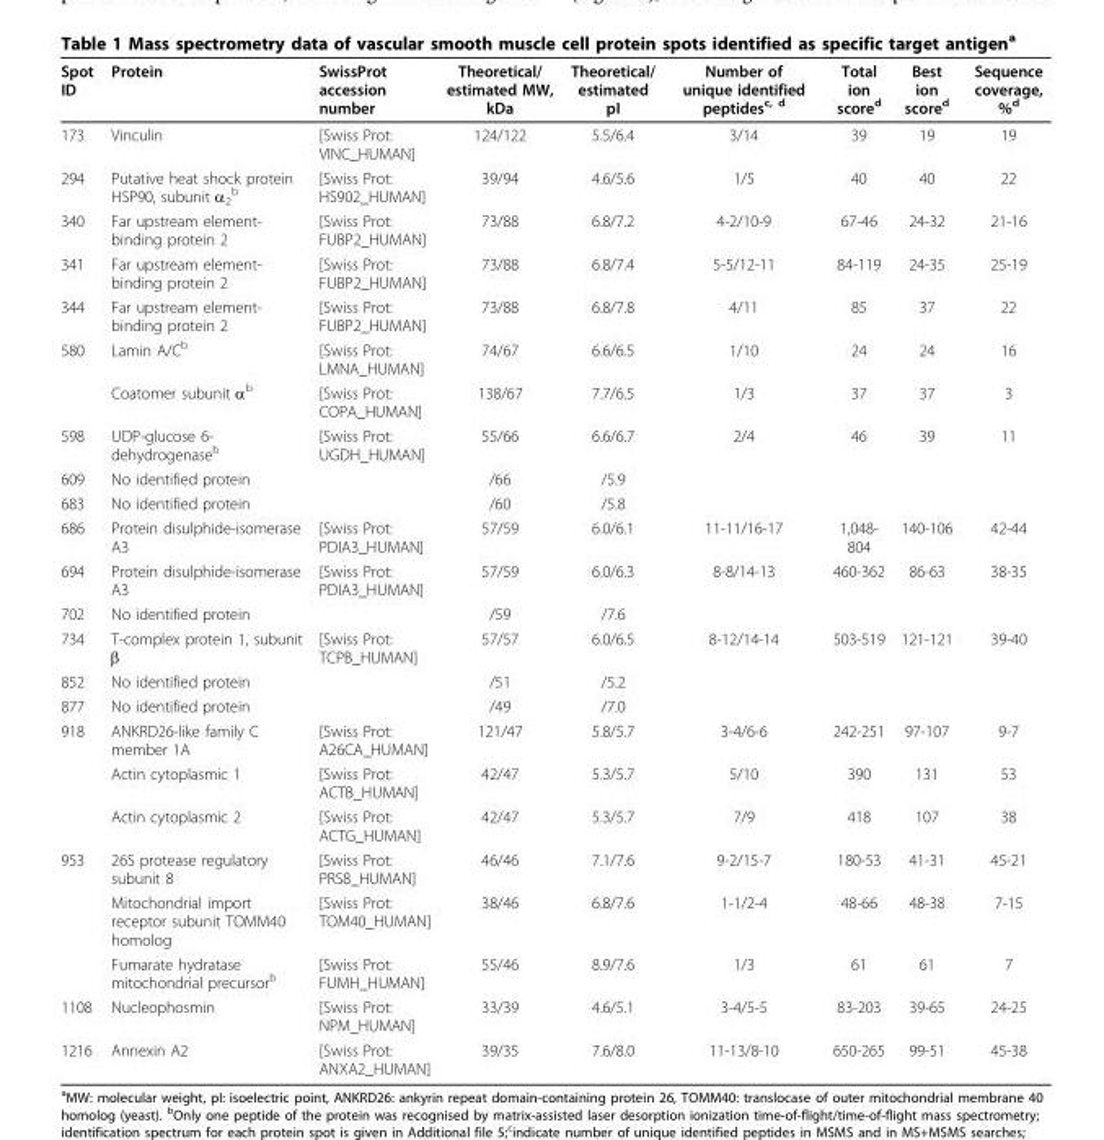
<table><thead><tr><td>Spot ID</td><td>Protein</td><td>SwissProt accession number</td><td>Theoretical/ estimated MW, kDa</td><td>Theoretical/ estimated pI</td><td>Number of unique identified peptides<sup>c, d</sup></td><td>Total ion score<sup>d</sup></td><td>Best ion score<sup>d</sup></td><td>Sequence coverage, %<sup>d</sup></td></tr></thead><tbody><tr><td>173</td><td>Vinculin</td><td>[Swiss Prot: VINC_HUMAN]</td><td>124/122</td><td>5.5/6.4</td><td>3/14</td><td>39</td><td>19</td><td>19</td></tr><tr><td>294</td><td>Putative heat shock protein HSP90, subunit α<sub>2</sub> <sup>b</sup></td><td>[Swiss Prot: HS902_HUMAN]</td><td>39/94</td><td>4.6/5.6</td><td>1/5</td><td>40</td><td>40</td><td>22</td></tr><tr><td>340</td><td>Far upstream element- binding protein 2</td><td>[Swiss Prot: FUBP2_HUMAN]</td><td>73/88</td><td>6.8/7.2</td><td>4-2/10-9</td><td>67-46</td><td>24-32</td><td>21-16</td></tr><tr><td>341</td><td>Far upstream element- binding protein 2</td><td>[Swiss Prot: FUBP2_HUMAN]</td><td>73/88</td><td>6.8/7.4</td><td>5-5/12-11</td><td>84-119</td><td>24-35</td><td>25-19</td></tr><tr><td>344</td><td>Far upstream element- binding protein 2</td><td>[Swiss Prot: FUBP2_HUMAN]</td><td>73/88</td><td>6.8/7.8</td><td>4/11</td><td>85</td><td>37</td><td>22</td></tr><tr><td rowspan="2">580</td><td>Lamin A/C<sup>b</sup></td><td>[Swiss Prot: LMNA_HUMAN]</td><td>74/67</td><td>6.6/6.5</td><td>1/10</td><td>24</td><td>24</td><td>16</td></tr><tr><td>Coatomer subunit α<sup>b</sup></td><td>[Swiss Prot: COPA_HUMAN]</td><td>138/67</td><td>7.7/6.5</td><td>1/3</td><td>37</td><td>37</td><td>3</td></tr><tr><td>598</td><td>UDP-glucose 6- dehydrogenase<sup>b</sup></td><td>[Swiss Prot: UGDH_HUMAN]</td><td>55/66</td><td>6.6/6.7</td><td>2/4</td><td>46</td><td>39</td><td>11</td></tr><tr><td>609</td><td>No identified protein</td><td></td><td>/66</td><td>/5.9</td><td></td><td></td><td></td><td></td></tr><tr><td>683</td><td>No identified protein</td><td></td><td>/60</td><td>/5.8</td><td></td><td></td><td></td><td></td></tr><tr><td>686</td><td>Protein disulphide-isomerase A3</td><td>[Swiss Prot: PDIA3_HUMAN]</td><td>57/59</td><td>6.0/6.1</td><td>11-11/16-17</td><td>1,048- 804</td><td>140-106</td><td>42-44</td></tr><tr><td>694</td><td>Protein disulphide-isomerase A3</td><td>[Swiss Prot: PDIA3_HUMAN]</td><td>57/59</td><td>6.0/6.3</td><td>8-8/14-13</td><td>460-362</td><td>86-63</td><td>38-35</td></tr><tr><td>702</td><td>No identified protein</td><td></td><td>/59</td><td>/7.6</td><td></td><td></td><td></td><td></td></tr><tr><td>734</td><td>T-complex protein 1, subunit β</td><td>[Swiss Prot: TCPB_HUMAN]</td><td>57/57</td><td>6.0/6.5</td><td>8-12/14-14</td><td>503-519</td><td>121-121</td><td>39-40</td></tr><tr><td>852</td><td>No identified protein</td><td></td><td>/51</td><td>/5.2</td><td></td><td></td><td></td><td></td></tr><tr><td>877</td><td>No identified protein</td><td></td><td>/49</td><td>/7.0</td><td></td><td></td><td></td><td></td></tr><tr><td rowspan="3">918</td><td>ANKRD26-like family C member 1A</td><td>[Swiss Prot: A26CA_HUMAN]</td><td>121/47</td><td>5.8/5.7</td><td>3-4/6-6</td><td>242-251</td><td>97-107</td><td>9-7</td></tr><tr><td>Actin cytoplasmic 1</td><td>[Swiss Prot: ACTB_HUMAN]</td><td>42/47</td><td>5.3/5.7</td><td>5/10</td><td>390</td><td>131</td><td>53</td></tr><tr><td>Actin cytoplasmic 2</td><td>[Swiss Prot: ACTG_HUMAN]</td><td>42/47</td><td>5.3/5.7</td><td>7/9</td><td>418</td><td>107</td><td>38</td></tr><tr><td rowspan="3">953</td><td>26S protease regulatory subunit 8</td><td>[Swiss Prot: PRS8_HUMAN]</td><td>46/46</td><td>7.1/7.6</td><td>9-2/15-7</td><td>180-53</td><td>41-31</td><td>45-21</td></tr><tr><td>Mitochondrial import receptor subunit TOMM40 homolog</td><td>[Swiss Prot: TOM40_HUMAN]</td><td>38/46</td><td>6.8/7.6</td><td>1-1/2-4</td><td>48-66</td><td>48-38</td><td>7-15</td></tr><tr><td>Fumarate hydratase mitochondrial precursor<sup>b</sup></td><td>[Swiss Prot: FUMH_HUMAN]</td><td>55/46</td><td>8.9/7.6</td><td>1/3</td><td>61</td><td>61</td><td>7</td></tr><tr><td>1108</td><td>Nucleophosmin</td><td>[Swiss Prot: NPM_HUMAN]</td><td>33/39</td><td>4.6/5.1</td><td>3-4/5-5</td><td>83-203</td><td>39-65</td><td>24-25</td></tr><tr><td>1216</td><td>Annexin A2</td><td>[Swiss Prot: ANXA2_HUMAN]</td><td>39/35</td><td>7.6/8.0</td><td>11-13/8-10</td><td>650-265</td><td>99-51</td><td>45-38</td></tr></tbody></table>